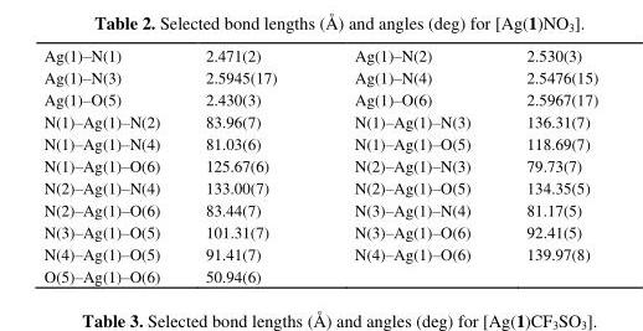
<table><tbody><tr><td>Ag(1)–N(1)</td><td>2.471(2)</td><td>Ag(1)–N(2)</td><td>2.530(3)</td></tr><tr><td>Ag(1)–N(3)</td><td>2.5945(17)</td><td>Ag(1)–N(4)</td><td>2.5476(15)</td></tr><tr><td>Ag(1)–O(5)</td><td>2.430(3)</td><td>Ag(1)–O(6)</td><td>2.5967(17)</td></tr><tr><td>N(1)–Ag(1)–N(2)</td><td>83.96(7)</td><td>N(1)–Ag(1)–N(3)</td><td>136.31(7)</td></tr><tr><td>N(1)–Ag(1)–N(4)</td><td>81.03(6)</td><td>N(1)–Ag(1)–O(5)</td><td>118.69(7)</td></tr><tr><td>N(1)–Ag(1)–O(6)</td><td>125.67(6)</td><td>N(2)–Ag(1)–N(3)</td><td>79.73(7)</td></tr><tr><td>N(2)–Ag(1)–N(4)</td><td>133.00(7)</td><td>N(2)–Ag(1)–O(5)</td><td>134.35(5)</td></tr><tr><td>N(2)–Ag(1)–O(6)</td><td>83.44(7)</td><td>N(3)–Ag(1)–N(4)</td><td>81.17(5)</td></tr><tr><td>N(3)–Ag(1)–O(5)</td><td>101.31(7)</td><td>N(3)–Ag(1)–O(6)</td><td>92.41(5)</td></tr><tr><td>N(4)–Ag(1)–O(5)</td><td>91.41(7)</td><td>N(4)–Ag(1)–O(6)</td><td>139.97(8)</td></tr><tr><td>O(5)–Ag(1)–O(6)</td><td>50.94(6)</td><td></td><td></td></tr></tbody></table>